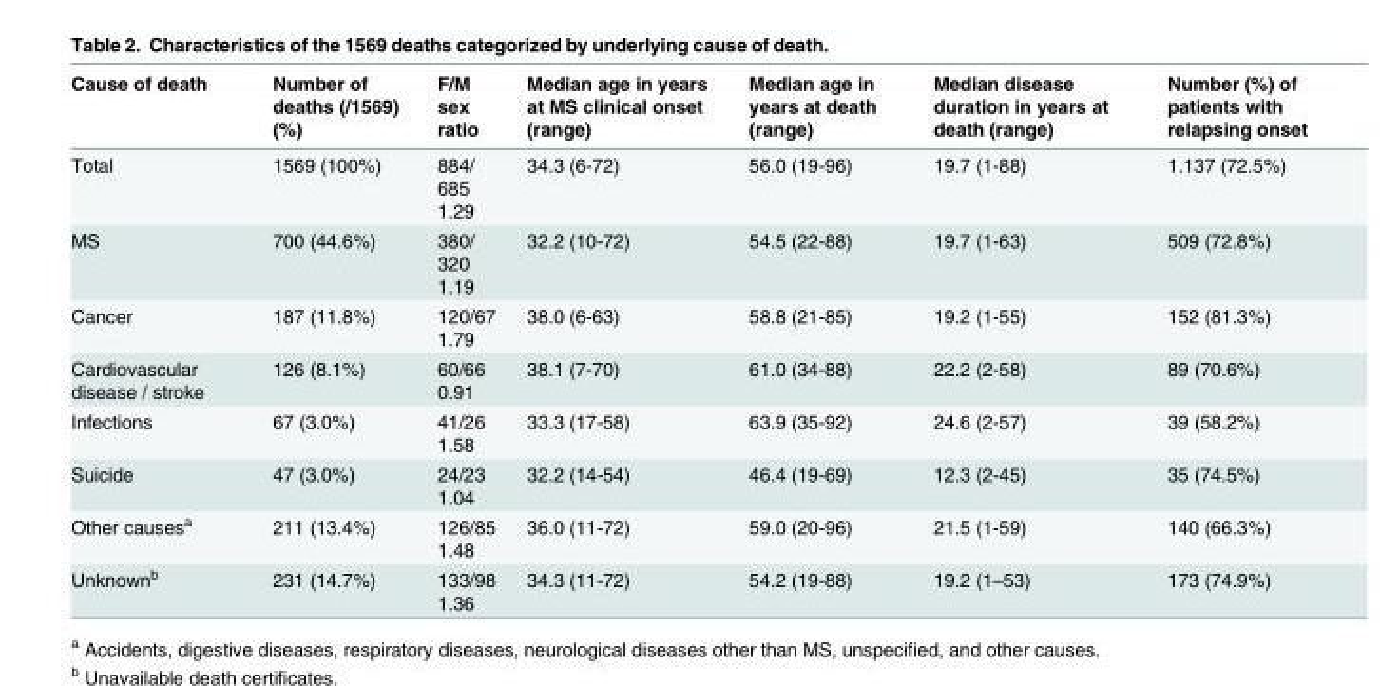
<table><thead><tr><td>Cause of death</td><td>Number of deaths (/1569) (%)</td><td>F/M sex ratio</td><td>Median age in years at MS clinical onset (range)</td><td>Median age in years at death (range)</td><td>Median disease duration in years at death (range)</td><td>Number (%) of patients with relapsing onset</td></tr></thead><tbody><tr><td>Total</td><td>1569 (100%)</td><td>884/ 685 1.29</td><td>34.3 (6-72)</td><td>56.0 (19-96)</td><td>19.7 (1-88)</td><td>1.137 (72.5%)</td></tr><tr><td>MS</td><td>700 (44.6%)</td><td>380/ 320 1.19</td><td>32.2 (10-72)</td><td>54.5 (22-88)</td><td>19.7 (1-63)</td><td>509 (72.8%)</td></tr><tr><td>Cancer</td><td>187 (11.8%)</td><td>120/67 1.79</td><td>38.0 (6-63)</td><td>58.8 (21-85)</td><td>19.2 (1-55)</td><td>152 (81.3%)</td></tr><tr><td>Cardiovascular disease / stroke</td><td>126 (8.1%)</td><td>60/66 0.91</td><td>38.1 (7-70)</td><td>61.0 (34-88)</td><td>22.2 (2-58)</td><td>89 (70.6%)</td></tr><tr><td>Infections</td><td>67 (3.0%)</td><td>41/26 1.58</td><td>33.3 (17-58)</td><td>63.9 (35-92)</td><td>24.6 (2-57)</td><td>39 (58.2%)</td></tr><tr><td>Suicide</td><td>47 (3.0%)</td><td>24/23 1.04</td><td>32.2 (14-54)</td><td>46.4 (19-69)</td><td>12.3 (2-45)</td><td>35 (74.5%)</td></tr><tr><td>Other causes<sup>a</sup></td><td>211 (13.4%)</td><td>126/85 1.48</td><td>36.0 (11-72)</td><td>59.0 (20-96)</td><td>21.5 (1-59)</td><td>140 (66.3%)</td></tr><tr><td>Unknown<sup>b</sup></td><td>231 (14.7%)</td><td>133/98 1.36</td><td>34.3 (11-72)</td><td>54.2 (19-88)</td><td>19.2 (1–53)</td><td>173 (74.9%)</td></tr></tbody></table>